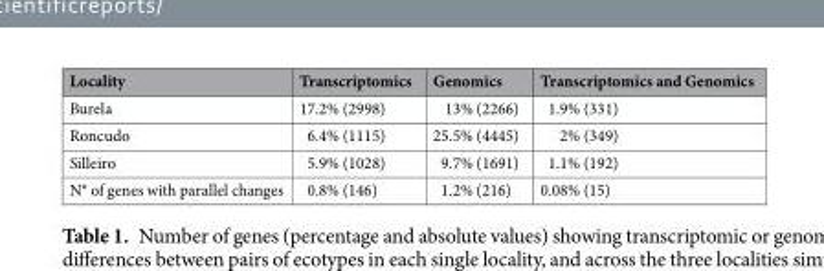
<table><thead><tr><td>Locality</td><td>Transcriptomics</td><td>Genomics</td><td>Transcriptomics and Genomics</td></tr></thead><tbody><tr><td>Burela</td><td>17.2% (2998)</td><td>13% (2266)</td><td>1.9% (331)</td></tr><tr><td>Roncudo</td><td>6.4% (1115)</td><td>25.5% (4445)</td><td>2% (349)</td></tr><tr><td>Silleiro</td><td>5.9% (1028)</td><td>9.7% (1691)</td><td>1.1% (192)</td></tr><tr><td>N° of genes with parallel changes</td><td>0.8% (146)</td><td>1.2% (216)</td><td>0.08% (15)</td></tr></tbody></table>